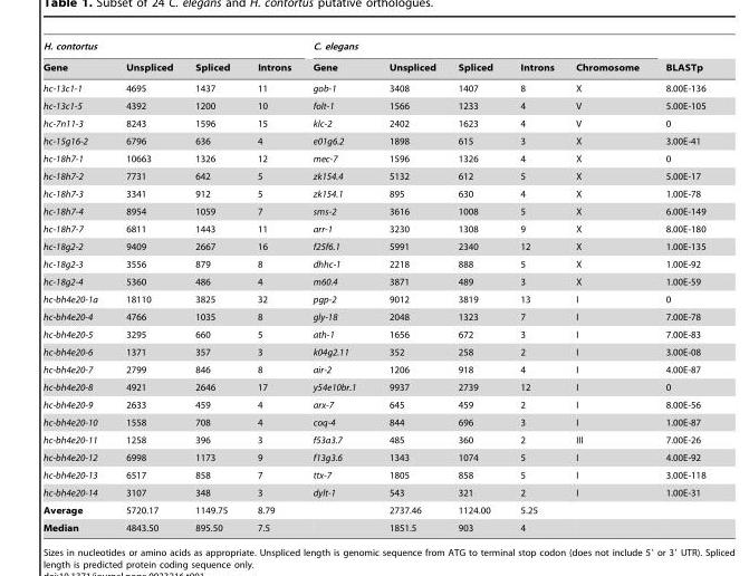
<table><thead><tr><td colspan="4">H. contortus</td><td colspan="5">C. elegans</td><td rowspan="2">BLASTp</td></tr><tr><td>Gene</td><td>Unspliced</td><td>Spliced</td><td>Introns</td><td>Gene</td><td>Unspliced</td><td>Spliced</td><td>Introns</td><td>Chromosome</td></tr></thead><tbody><tr><td>hc-13c1-1</td><td>4695</td><td>1437</td><td>11</td><td>gob-1</td><td>3408</td><td>1407</td><td>8</td><td>X</td><td>8.00E-136</td></tr><tr><td>hc-13c1-5</td><td>4392</td><td>1200</td><td>10</td><td>folt-1</td><td>1566</td><td>1233</td><td>4</td><td>V</td><td>5.00E-105</td></tr><tr><td>hc-7n11-3</td><td>8243</td><td>1596</td><td>15</td><td>klc-2</td><td>2402</td><td>1623</td><td>4</td><td>V</td><td>0</td></tr><tr><td>hc-15g16-2</td><td>6796</td><td>636</td><td>4</td><td>e01g6.2</td><td>1898</td><td>615</td><td>3</td><td>X</td><td>3.00E-41</td></tr><tr><td>hc-18h7-1</td><td>10663</td><td>1326</td><td>12</td><td>mec-7</td><td>1596</td><td>1326</td><td>4</td><td>X</td><td>0</td></tr><tr><td>hc-18h7-2</td><td>7731</td><td>642</td><td>5</td><td>zk154.4</td><td>5132</td><td>612</td><td>5</td><td>X</td><td>5.00E-17</td></tr><tr><td>hc-18h7-3</td><td>3341</td><td>912</td><td>5</td><td>zk154.1</td><td>895</td><td>630</td><td>4</td><td>X</td><td>1.00E-78</td></tr><tr><td>hc-18h7-4</td><td>8954</td><td>1059</td><td>7</td><td>sms-2</td><td>3616</td><td>1008</td><td>5</td><td>X</td><td>6.00E-149</td></tr><tr><td>hc-18h7-7</td><td>6811</td><td>1443</td><td>11</td><td>arr-1</td><td>3230</td><td>1308</td><td>9</td><td>X</td><td>8.00E-180</td></tr><tr><td>hc-18g2-2</td><td>9409</td><td>2667</td><td>16</td><td>f25f6.1</td><td>5991</td><td>2340</td><td>12</td><td>X</td><td>1.00E-135</td></tr><tr><td>hc-18g2-3</td><td>3556</td><td>879</td><td>8</td><td>dhhc-1</td><td>2218</td><td>888</td><td>5</td><td>X</td><td>1.00E-92</td></tr><tr><td>hc-18g2-4</td><td>5360</td><td>486</td><td>4</td><td>m60.4</td><td>3871</td><td>489</td><td>3</td><td>X</td><td>1.00E-59</td></tr><tr><td>hc-bh4e20-1a</td><td>18110</td><td>3825</td><td>32</td><td>pgp-2</td><td>9012</td><td>3819</td><td>13</td><td>I</td><td>0</td></tr><tr><td>hc-bh4e20-4</td><td>4766</td><td>1035</td><td>8</td><td>gly-18</td><td>2048</td><td>1323</td><td>7</td><td>I</td><td>7.00E-78</td></tr><tr><td>hc-bh4e20-5</td><td>3295</td><td>660</td><td>5</td><td>ath-1</td><td>1656</td><td>672</td><td>3</td><td>I</td><td>7.00E-83</td></tr><tr><td>hc-bh4e20-6</td><td>1371</td><td>357</td><td>3</td><td>k04g2.11</td><td>352</td><td>258</td><td>2</td><td>I</td><td>3.00E-08</td></tr><tr><td>hc-bh4e20-7</td><td>2799</td><td>846</td><td>8</td><td>air-2</td><td>1206</td><td>918</td><td>4</td><td>I</td><td>4.00E-87</td></tr><tr><td>hc-bh4e20-8</td><td>4921</td><td>2646</td><td>17</td><td>y54e10br.1</td><td>9937</td><td>2739</td><td>12</td><td>I</td><td>0</td></tr><tr><td>hc-bh4e20-9</td><td>2633</td><td>459</td><td>4</td><td>arx-7</td><td>645</td><td>459</td><td>2</td><td>I</td><td>8.00E-56</td></tr><tr><td>hc-bh4e20-10</td><td>1558</td><td>708</td><td>4</td><td>coq-4</td><td>844</td><td>696</td><td>3</td><td>I</td><td>1.00E-87</td></tr><tr><td>hc-bh4e20-11</td><td>1258</td><td>396</td><td>3</td><td>f53a3.7</td><td>485</td><td>360</td><td>2</td><td>III</td><td>7.00E-26</td></tr><tr><td>hc-bh4e20-12</td><td>6998</td><td>1173</td><td>9</td><td>f13g3.6</td><td>1343</td><td>1074</td><td>5</td><td>I</td><td>4.00E-92</td></tr><tr><td>hc-bh4e20-13</td><td>6517</td><td>858</td><td>7</td><td>ttx-7</td><td>1805</td><td>858</td><td>5</td><td>I</td><td>3.00E-118</td></tr><tr><td>hc-bh4e20-14</td><td>3107</td><td>348</td><td>3</td><td>dylt-1</td><td>543</td><td>321</td><td>2</td><td>I</td><td>1.00E-31</td></tr><tr><td>Average</td><td>5720.17</td><td>1149.75</td><td>8.79</td><td></td><td>2737.46</td><td>1124.00</td><td>5.25</td><td></td><td></td></tr><tr><td>Median</td><td>4843.50</td><td>895.50</td><td>7.5</td><td></td><td>1851.5</td><td>903</td><td>4</td><td></td><td></td></tr></tbody></table>